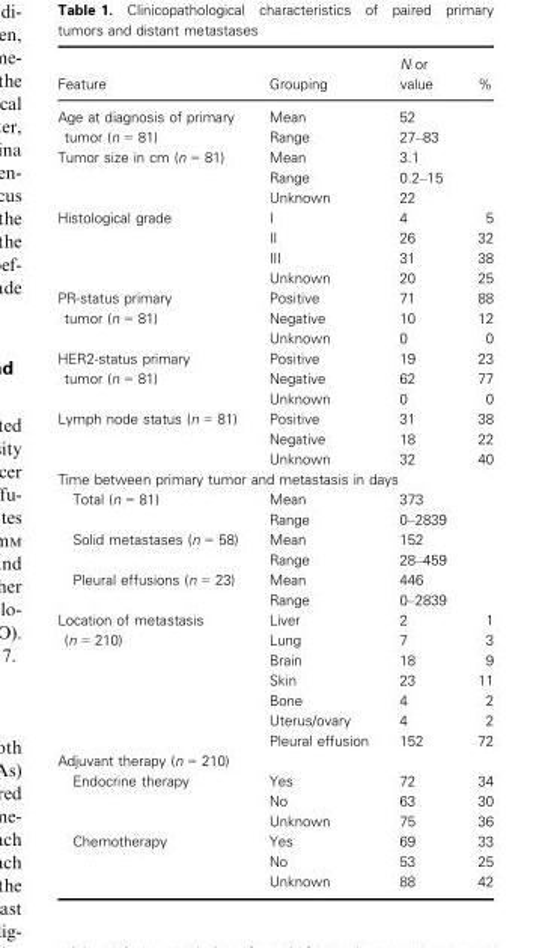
<table><thead><tr><td>Feature</td><td>Grouping</td><td>N or value</td><td>%</td></tr></thead><tbody><tr><td rowspan="2">Age at diagnosis of primary tumor (n = 81)</td><td>Mean</td><td>52</td><td></td></tr><tr><td>Range</td><td>27–83</td><td></td></tr><tr><td rowspan="3">Tumor size in cm (n = 81)</td><td>Mean</td><td>3.1</td><td></td></tr><tr><td>Range</td><td>0.2–15</td><td></td></tr><tr><td>Unknown</td><td>22</td><td></td></tr><tr><td rowspan="4">Histological grade</td><td>I</td><td>4</td><td>5</td></tr><tr><td>II</td><td>26</td><td>32</td></tr><tr><td>III</td><td>31</td><td>38</td></tr><tr><td>Unknown</td><td>20</td><td>25</td></tr><tr><td rowspan="3">PR-status primary tumor (n = 81)</td><td>Positive</td><td>71</td><td>88</td></tr><tr><td>Negative</td><td>10</td><td>12</td></tr><tr><td>Unknown</td><td>0</td><td>0</td></tr><tr><td rowspan="3">HER2-status primary tumor (n = 81)</td><td>Positive</td><td>19</td><td>23</td></tr><tr><td>Negative</td><td>62</td><td>77</td></tr><tr><td>Unknown</td><td>0</td><td>0</td></tr><tr><td rowspan="3">Lymph node status (n = 81)</td><td>Positive</td><td>31</td><td>38</td></tr><tr><td>Negative</td><td>18</td><td>22</td></tr><tr><td>Unknown</td><td>32</td><td>40</td></tr><tr><td colspan="4">Time between primary tumor and metastasis in days</td></tr><tr><td rowspan="2">Total (n = 81)</td><td>Mean</td><td>373</td><td></td></tr><tr><td>Range</td><td>0–2839</td><td></td></tr><tr><td rowspan="2">Solid metastases (n = 58)</td><td>Mean</td><td>152</td><td></td></tr><tr><td>Range</td><td>28–459</td><td></td></tr><tr><td rowspan="2">Pleural effusions (n = 23)</td><td>Mean</td><td>446</td><td></td></tr><tr><td>Range</td><td>0–2839</td><td></td></tr><tr><td rowspan="7">Location of metastasis (n = 210)</td><td>Liver</td><td>2</td><td>1</td></tr><tr><td>Lung</td><td>7</td><td>3</td></tr><tr><td>Brain</td><td>18</td><td>9</td></tr><tr><td>Skin</td><td>23</td><td>11</td></tr><tr><td>Bone</td><td>4</td><td>2</td></tr><tr><td>Uterus/ovary</td><td>4</td><td>2</td></tr><tr><td>Pleural effusion</td><td>152</td><td>72</td></tr><tr><td colspan="4">Adjuvant therapy (n = 210)</td></tr><tr><td rowspan="3">Endocrine therapy</td><td>Yes</td><td>72</td><td>34</td></tr><tr><td>No</td><td>63</td><td>30</td></tr><tr><td>Unknown</td><td>75</td><td>36</td></tr><tr><td rowspan="3">Chemotherapy</td><td>Yes</td><td>69</td><td>33</td></tr><tr><td>No</td><td>53</td><td>25</td></tr><tr><td>Unknown</td><td>88</td><td>42</td></tr></tbody></table>